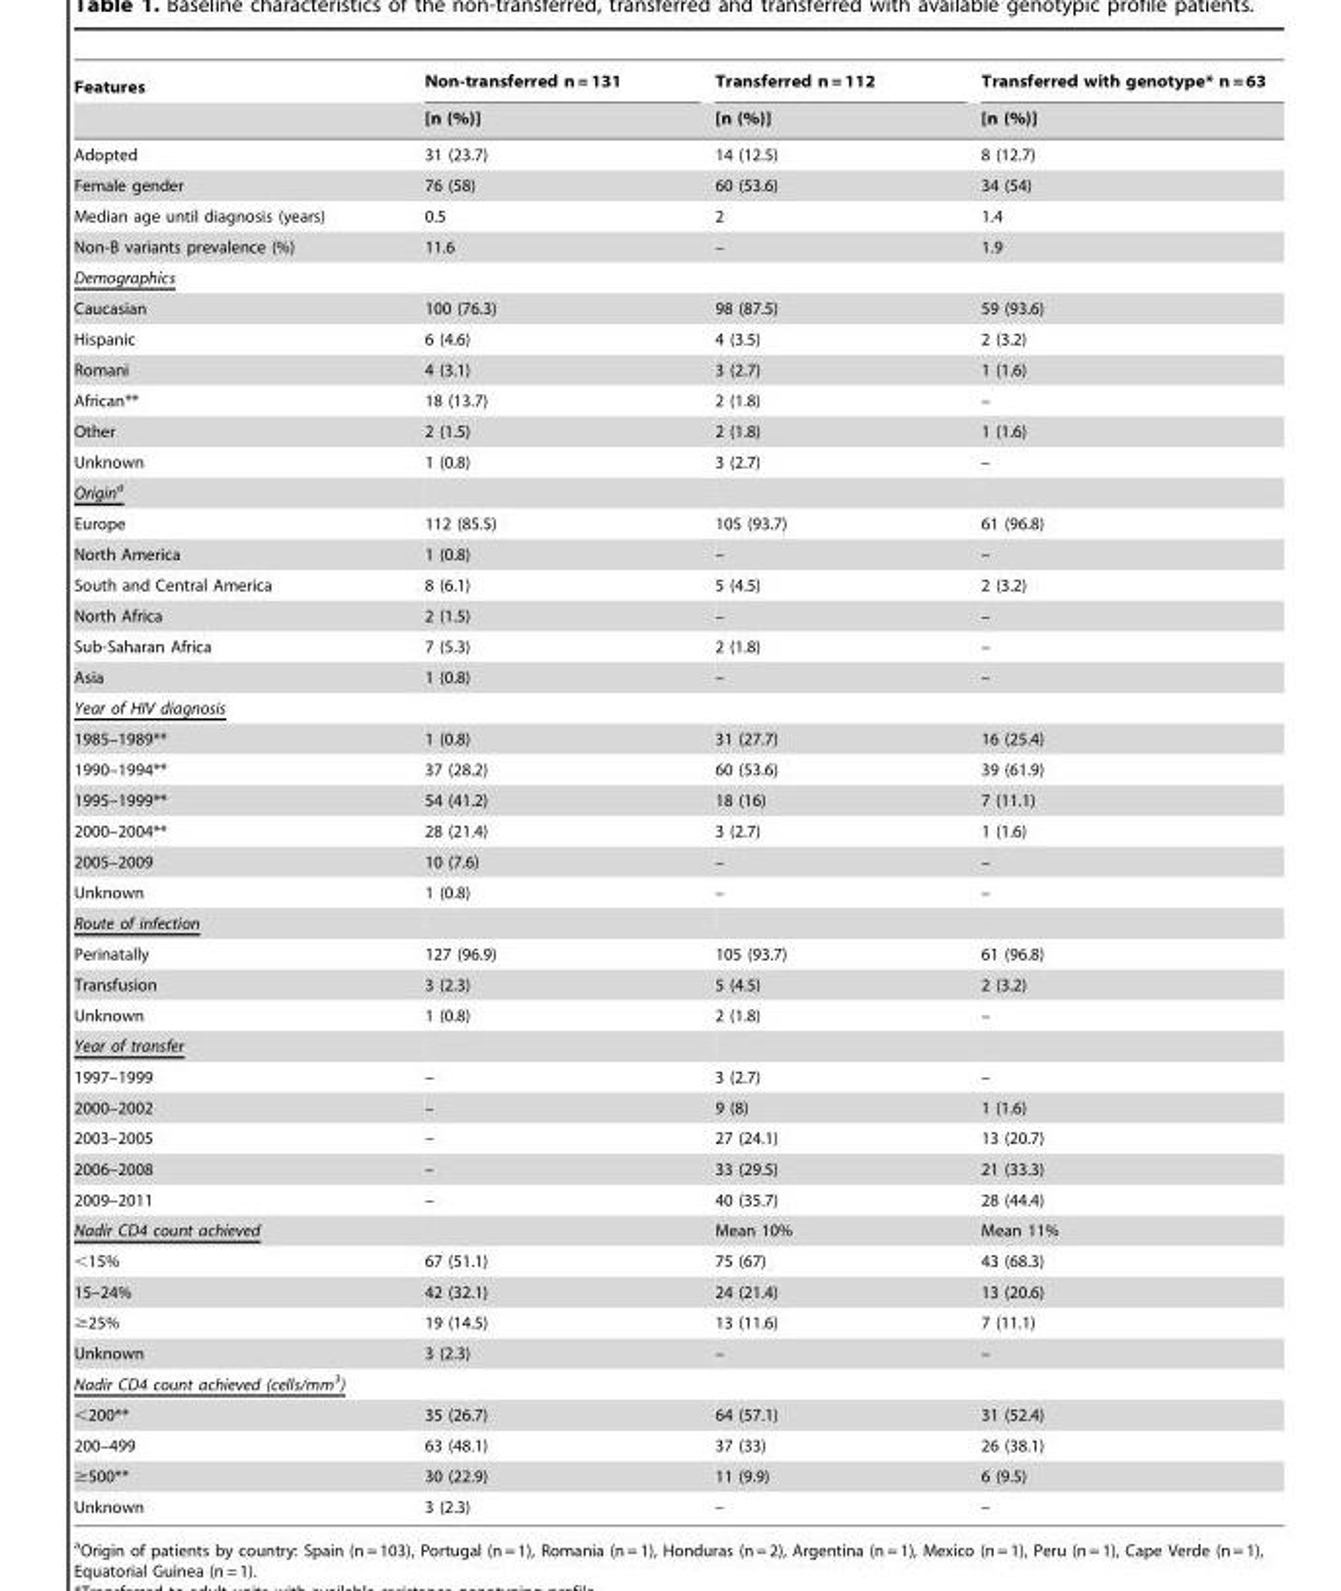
<table><thead><tr><td rowspan="2">Features</td><td rowspan="2">Non-transferred n = 131 [n (%)]</td><td rowspan="2">Transferred n = 112 [n (%)]</td><td rowspan="2">Transferred with genotype* n = 63 [n (%)]</td></tr><tr></tr></thead><tbody><tr><td>Adopted</td><td>31 (23.7)</td><td>14 (12.5)</td><td>8 (12.7)</td></tr><tr><td>Female gender</td><td>76 (58)</td><td>60 (53.6)</td><td>34 (54)</td></tr><tr><td>Median age until diagnosis (years)</td><td>0.5</td><td>2</td><td>1.4</td></tr><tr><td>Non-B variants prevalence (%)</td><td>11.6</td><td>–</td><td>1.9</td></tr><tr><td colspan="4">Demographics</td></tr><tr><td>Caucasian</td><td>100 (76.3)</td><td>98 (87.5)</td><td>59 (93.6)</td></tr><tr><td>Hispanic</td><td>6 (4.6)</td><td>4 (3.5)</td><td>2 (3.2)</td></tr><tr><td>Romani</td><td>4 (3.1)</td><td>3 (2.7)</td><td>1 (1.6)</td></tr><tr><td>African**</td><td>18 (13.7)</td><td>2 (1.8)</td><td>–</td></tr><tr><td>Other</td><td>2 (1.5)</td><td>2 (1.8)</td><td>1 (1.6)</td></tr><tr><td>Unknown</td><td>1 (0.8)</td><td>3 (2.7)</td><td>–</td></tr><tr><td colspan="4">Origina</td></tr><tr><td>Europe</td><td>112 (85.5)</td><td>105 (93.7)</td><td>61 (96.8)</td></tr><tr><td>North America</td><td>1 (0.8)</td><td>–</td><td>–</td></tr><tr><td>South and Central America</td><td>8 (6.1)</td><td>5 (4.5)</td><td>2 (3.2)</td></tr><tr><td>North Africa</td><td>2 (1.5)</td><td>–</td><td>–</td></tr><tr><td>Sub-Saharan Africa</td><td>7 (5.3)</td><td>2 (1.8)</td><td>–</td></tr><tr><td>Asia</td><td>1 (0.8)</td><td>–</td><td>–</td></tr><tr><td colspan="4">Year of HIV diagnosis</td></tr><tr><td>1985–1989**</td><td>1 (0.8)</td><td>31 (27.7)</td><td>16 (25.4)</td></tr><tr><td>1990–1994**</td><td>37 (28.2)</td><td>60 (53.6)</td><td>39 (61.9)</td></tr><tr><td>1995–1999**</td><td>54 (41.2)</td><td>18 (16)</td><td>7 (11.1)</td></tr><tr><td>2000–2004**</td><td>28 (21.4)</td><td>3 (2.7)</td><td>1 (1.6)</td></tr><tr><td>2005–2009</td><td>10 (7.6)</td><td>–</td><td>–</td></tr><tr><td>Unknown</td><td>1 (0.8)</td><td>–</td><td>–</td></tr><tr><td colspan="4">Route of infection</td></tr><tr><td>Perinatally</td><td>127 (96.9)</td><td>105 (93.7)</td><td>61 (96.8)</td></tr><tr><td>Transfusion</td><td>3 (2.3)</td><td>5 (4.5)</td><td>2 (3.2)</td></tr><tr><td>Unknown</td><td>1 (0.8)</td><td>2 (1.8)</td><td>–</td></tr><tr><td colspan="4">Year of transfer</td></tr><tr><td>1997–1999</td><td>–</td><td>3 (2.7)</td><td>–</td></tr><tr><td>2000–2002</td><td>–</td><td>9 (8)</td><td>1 (1.6)</td></tr><tr><td>2003–2005</td><td>–</td><td>27 (24.1)</td><td>13 (20.7)</td></tr><tr><td>2006–2008</td><td>–</td><td>33 (29.5)</td><td>21 (33.3)</td></tr><tr><td>2009–2011</td><td>–</td><td>40 (35.7)</td><td>28 (44.4)</td></tr><tr><td>Nadir CD4 count achieved</td><td></td><td>Mean 10%</td><td>Mean 11%</td></tr><tr><td>&lt;15%</td><td>67 (51.1)</td><td>75 (67)</td><td>43 (68.3)</td></tr><tr><td>15–24%</td><td>42 (32.1)</td><td>24 (21.4)</td><td>13 (20.6)</td></tr><tr><td>≥25%</td><td>19 (14.5)</td><td>13 (11.6)</td><td>7 (11.1)</td></tr><tr><td>Unknown</td><td>3 (2.3)</td><td>–</td><td>–</td></tr><tr><td colspan="4">Nadir CD4 count achieved (cells/mm<sup>3</sup>)</td></tr><tr><td>&lt;200**</td><td>35 (26.7)</td><td>64 (57.1)</td><td>31 (52.4)</td></tr><tr><td>200–499</td><td>63 (48.1)</td><td>37 (33)</td><td>26 (38.1)</td></tr><tr><td>≥500**</td><td>30 (22.9)</td><td>11 (9.9)</td><td>6 (9.5)</td></tr><tr><td>Unknown</td><td>3 (2.3)</td><td>–</td><td>–</td></tr></tbody></table>